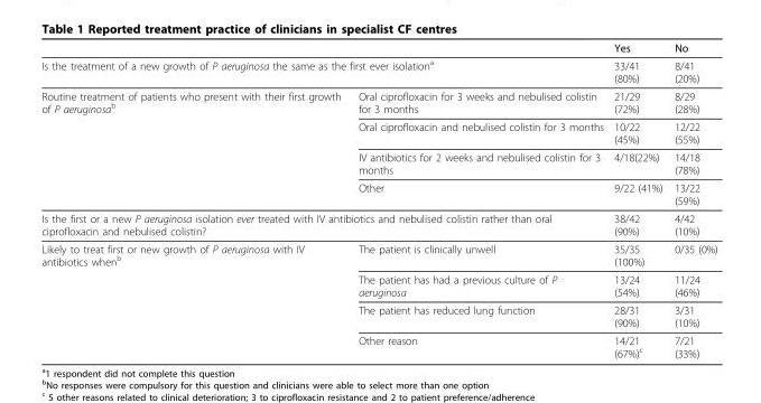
<table><thead><tr><td></td><td></td><td>Yes</td><td>No</td></tr></thead><tbody><tr><td colspan="2">Is the treatment of a new growth of P aeruginosa the same as the first ever isolation<sup>a</sup></td><td>33/41 (80%)</td><td>8/41 (20%)</td></tr><tr><td rowspan="4">Routine treatment of patients who present with their first growth of P aeruginosa<sup>b</sup></td><td>Oral ciprofloxacin for 3 weeks and nebulised colistin for 3 months</td><td>21/29 (72%)</td><td>8/29 (28%)</td></tr><tr><td>Oral ciprofloxacin and nebulised colistin for 3 months</td><td>10/22 (45%)</td><td>12/22 (55%)</td></tr><tr><td>IV antibiotics for 2 weeks and nebulised colistin for 3 months</td><td>4/18(22%)</td><td>14/18 (78%)</td></tr><tr><td>Other</td><td>9/22 (41%)</td><td>13/22 (59%)</td></tr><tr><td colspan="2">Is the first or a new P aeruginosa isolation ever treated with IV antibiotics and nebulised colistin rather than oral ciprofloxacin and nebulised colistin?</td><td>38/42 (90%)</td><td>4/42 (10%)</td></tr><tr><td rowspan="4">Likely to treat first or new growth of P aeruginosa with IV antibiotics when<sup>b</sup></td><td>The patient is clinically unwell</td><td>35/35 (100%)</td><td>0/35 (0%)</td></tr><tr><td>The patient has had a previous culture of P aeruginosa</td><td>13/24 (54%)</td><td>11/24 (46%)</td></tr><tr><td>The patient has reduced lung function</td><td>28/31 (90%)</td><td>3/31 (10%)</td></tr><tr><td>Other reason</td><td>14/21 (67%)<sup>c</sup></td><td>7/21 (33%)</td></tr></tbody></table>